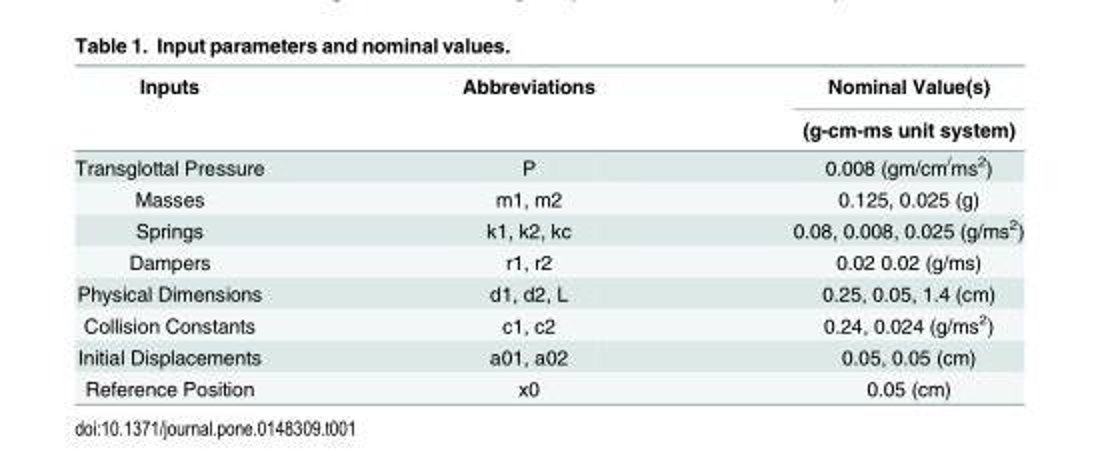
<table><thead><tr><td rowspan="2">Inputs</td><td rowspan="2">Abbreviations</td><td rowspan="2">Nominal Value(s) (g-cm-ms unit system)</td></tr><tr></tr></thead><tbody><tr><td>Transglottal Pressure</td><td>P</td><td>0.008 (gm/cm<sup>/</sup>ms<sup>2</sup>)</td></tr><tr><td>Masses</td><td>m1, m2</td><td>0.125, 0.025 (g)</td></tr><tr><td>Springs</td><td>k1, k2, kc</td><td>0.08, 0.008, 0.025 (g/ms<sup>2</sup>)</td></tr><tr><td>Dampers</td><td>r1, r2</td><td>0.02 0.02 (g/ms)</td></tr><tr><td>Physical Dimensions</td><td>d1, d2, L</td><td>0.25, 0.05, 1.4 (cm)</td></tr><tr><td>Collision Constants</td><td>c1, c2</td><td>0.24, 0.024 (g/ms<sup>2</sup>)</td></tr><tr><td>Initial Displacements</td><td>a01, a02</td><td>0.05, 0.05 (cm)</td></tr><tr><td>Reference Position</td><td>x0</td><td>0.05 (cm)</td></tr></tbody></table>